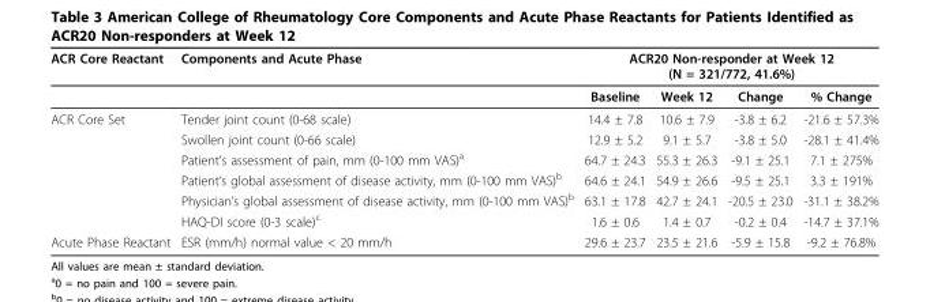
<table><thead><tr><td rowspan="2">ACR Core Reactant</td><td rowspan="2">Components and Acute Phase</td><td colspan="4">ACR20 Non-responder at Week 12 (N = 321/772, 41.6%)</td></tr><tr><td>Baseline</td><td>Week 12</td><td>Change</td><td>% Change</td></tr></thead><tbody><tr><td rowspan="6">ACR Core Set</td><td>Tender joint count (0-68 scale)</td><td>14.4 ± 7.8</td><td>10.6 ± 7.9</td><td>-3.8 ± 6.2</td><td>-21.6 ± 57.3%</td></tr><tr><td>Swollen joint count (0-66 scale)</td><td>12.9 ± 5.2</td><td>9.1 ± 5.7</td><td>-3.8 ± 5.0</td><td>-28.1 ± 41.4%</td></tr><tr><td>Patient’s assessment of pain, mm (0-100 mm VAS)<sup>a</sup></td><td>64.7 ± 24.3</td><td>55.3 ± 26.3</td><td>-9.1 ± 25.1</td><td>7.1 ± 275%</td></tr><tr><td>Patient’s global assessment of disease activity, mm (0-100 mm VAS)<sup>b</sup></td><td>64.6 ± 24.1</td><td>54.9 ± 26.6</td><td>-9.5 ± 25.1</td><td>3.3 ± 191%</td></tr><tr><td>Physician’s global assessment of disease activity, mm (0-100 mm VAS)<sup>b</sup></td><td>63.1 ± 17.8</td><td>42.7 ± 24.1</td><td>-20.5 ± 23.0</td><td>-31.1 ± 38.2%</td></tr><tr><td>HAQ-DI score (0-3 scale)<sup>c</sup></td><td>1.6 ± 0.6</td><td>1.4 ± 0.7</td><td>-0.2 ± 0.4</td><td>-14.7 ± 37.1%</td></tr><tr><td>Acute Phase Reactant</td><td>ESR (mm/h) normal value &lt; 20 mm/h</td><td>29.6 ± 23.7</td><td>23.5 ± 21.6</td><td>-5.9 ± 15.8</td><td>-9.2 ± 76.8%</td></tr></tbody></table>